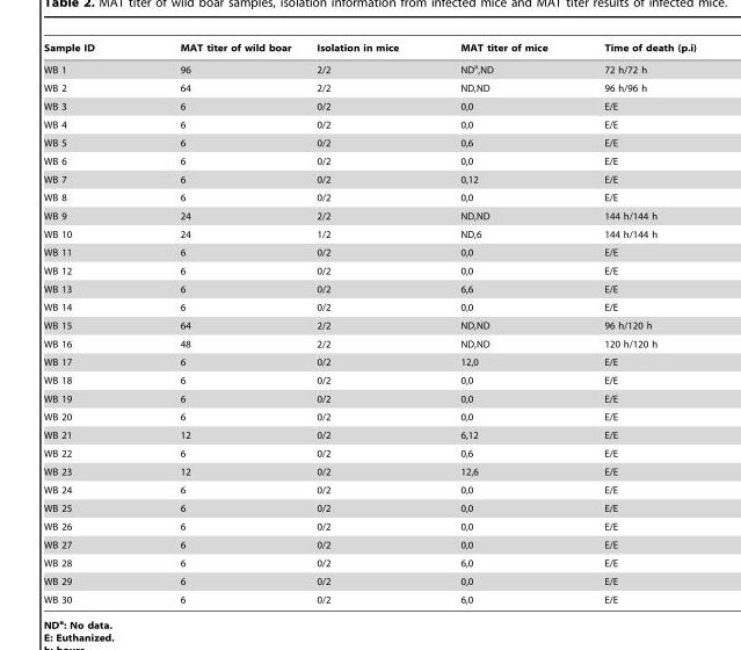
<table><thead><tr><td>Sample ID</td><td>MAT titer of wild boar</td><td>Isolation in mice</td><td>MAT titer of mice</td><td>Time of death (p.i)</td></tr></thead><tbody><tr><td>WB 1</td><td>96</td><td>2/2</td><td>ND<sup>a</sup>,ND</td><td>72 h/72 h</td></tr><tr><td>WB 2</td><td>64</td><td>2/2</td><td>ND,ND</td><td>96 h/96 h</td></tr><tr><td>WB 3</td><td>6</td><td>0/2</td><td>0,0</td><td>E/E</td></tr><tr><td>WB 4</td><td>6</td><td>0/2</td><td>0,0</td><td>E/E</td></tr><tr><td>WB 5</td><td>6</td><td>0/2</td><td>0,6</td><td>E/E</td></tr><tr><td>WB 6</td><td>6</td><td>0/2</td><td>0,0</td><td>E/E</td></tr><tr><td>WB 7</td><td>6</td><td>0/2</td><td>0,12</td><td>E/E</td></tr><tr><td>WB 8</td><td>6</td><td>0/2</td><td>0,0</td><td>E/E</td></tr><tr><td>WB 9</td><td>24</td><td>2/2</td><td>ND,ND</td><td>144 h/144 h</td></tr><tr><td>WB 10</td><td>24</td><td>1/2</td><td>ND,6</td><td>144 h/144 h</td></tr><tr><td>WB 11</td><td>6</td><td>0/2</td><td>0,0</td><td>E/E</td></tr><tr><td>WB 12</td><td>6</td><td>0/2</td><td>0,0</td><td>E/E</td></tr><tr><td>WB 13</td><td>6</td><td>0/2</td><td>6,6</td><td>E/E</td></tr><tr><td>WB 14</td><td>6</td><td>0/2</td><td>0,0</td><td>E/E</td></tr><tr><td>WB 15</td><td>64</td><td>2/2</td><td>ND,ND</td><td>96 h/120 h</td></tr><tr><td>WB 16</td><td>48</td><td>2/2</td><td>ND,ND</td><td>120 h/120 h</td></tr><tr><td>WB 17</td><td>6</td><td>0/2</td><td>12,0</td><td>E/E</td></tr><tr><td>WB 18</td><td>6</td><td>0/2</td><td>0,0</td><td>E/E</td></tr><tr><td>WB 19</td><td>6</td><td>0/2</td><td>0,0</td><td>E/E</td></tr><tr><td>WB 20</td><td>6</td><td>0/2</td><td>0,0</td><td>E/E</td></tr><tr><td>WB 21</td><td>12</td><td>0/2</td><td>6,12</td><td>E/E</td></tr><tr><td>WB 22</td><td>6</td><td>0/2</td><td>0,6</td><td>E/E</td></tr><tr><td>WB 23</td><td>12</td><td>0/2</td><td>12,6</td><td>E/E</td></tr><tr><td>WB 24</td><td>6</td><td>0/2</td><td>0,0</td><td>E/E</td></tr><tr><td>WB 25</td><td>6</td><td>0/2</td><td>0,0</td><td>E/E</td></tr><tr><td>WB 26</td><td>6</td><td>0/2</td><td>0,0</td><td>E/E</td></tr><tr><td>WB 27</td><td>6</td><td>0/2</td><td>0,0</td><td>E/E</td></tr><tr><td>WB 28</td><td>6</td><td>0/2</td><td>6,0</td><td>E/E</td></tr><tr><td>WB 29</td><td>6</td><td>0/2</td><td>0,0</td><td>E/E</td></tr><tr><td>WB 30</td><td>6</td><td>0/2</td><td>6,0</td><td>E/E</td></tr></tbody></table>